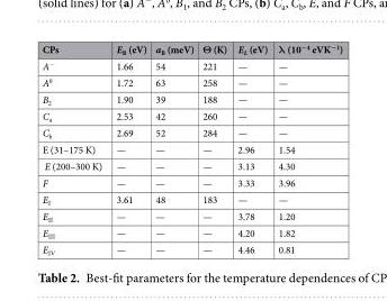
<table><thead><tr><td>CPs</td><td>E<sub>B</sub> (eV)</td><td>a<sub>B</sub> (meV)</td><td>Θ (K)</td><td>E<sub>L</sub> (eV)</td><td>λ (10<sup>−4</sup> eVK<sup>−1</sup>)</td></tr></thead><tbody><tr><td>A<sup>−</sup></td><td>1.66</td><td>54</td><td>221</td><td>—</td><td>—</td></tr><tr><td>A<sup>0</sup></td><td>1.72</td><td>63</td><td>258</td><td>—</td><td>—</td></tr><tr><td>B<sub>2</sub></td><td>1.90</td><td>39</td><td>188</td><td>—</td><td>—</td></tr><tr><td>C<sub>a</sub></td><td>2.53</td><td>42</td><td>260</td><td>—</td><td>—</td></tr><tr><td>C<sub>b</sub></td><td>2.69</td><td>52</td><td>284</td><td>—</td><td>—</td></tr><tr><td>E (31–175 K)</td><td>—</td><td>—</td><td>—</td><td>2.96</td><td>1.54</td></tr><tr><td>E (200–300 K)</td><td>—</td><td>—</td><td>—</td><td>3.13</td><td>4.30</td></tr><tr><td>F</td><td>—</td><td>—</td><td>—</td><td>3.33</td><td>3.96</td></tr><tr><td>E<sub>I</sub></td><td>3.61</td><td>48</td><td>183</td><td>—</td><td>—</td></tr><tr><td>E<sub>II</sub></td><td>—</td><td>—</td><td>—</td><td>3.78</td><td>1.20</td></tr><tr><td>E<sub>III</sub></td><td>—</td><td>—</td><td>—</td><td>4.20</td><td>1.82</td></tr><tr><td>E<sub>IV</sub></td><td>—</td><td>—</td><td>—</td><td>4.46</td><td>0.81</td></tr></tbody></table>